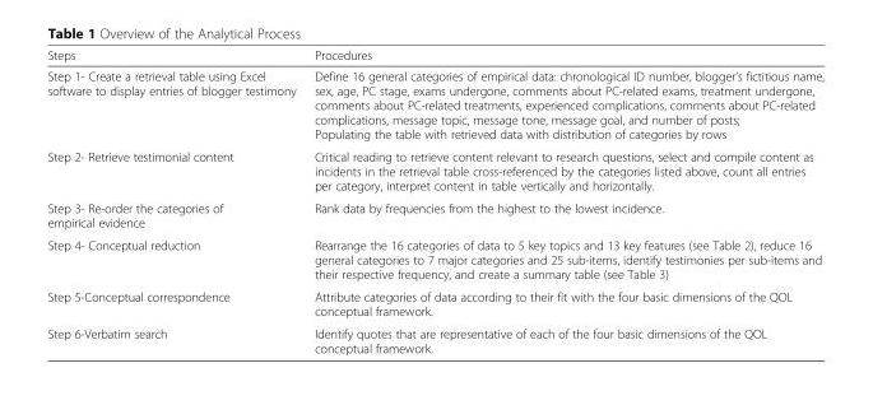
<table><thead><tr><td>Steps</td><td>Procedures</td></tr></thead><tbody><tr><td>Step 1- Create a retrieval table using Excel software to display entries of blogger testimony</td><td>Define 16 general categories of empirical data: chronological ID number, blogger’s fictitious name, sex, age, PC stage, exams undergone, comments about PC-related exams, treatment undergone, comments about PC-related treatments, experienced complications, comments about PC-related complications, message topic, message tone, message goal, and number of posts; Populating the table with retrieved data with distribution of categories by rows</td></tr><tr><td>Step 2- Retrieve testimonial content</td><td>Critical reading to retrieve content relevant to research questions, select and compile content as incidents in the retrieval table cross-referenced by the categories listed above, count all entries per category, interpret content in table vertically and horizontally.</td></tr><tr><td>Step 3- Re-order the categories of empirical evidence</td><td>Rank data by frequencies from the highest to the lowest incidence.</td></tr><tr><td>Step 4- Conceptual reduction</td><td>Rearrange the 16 categories of data to 5 key topics and 13 key features (see Table 2), reduce 16 general categories to 7 major categories and 25 sub-items, identify testimonies per sub-items and their respective frequency, and create a summary table (see Table 3)</td></tr><tr><td>Step 5-Conceptual correspondence</td><td>Attribute categories of data according to their fit with the four basic dimensions of the QOL conceptual framework.</td></tr><tr><td>Step 6-Verbatim search</td><td>Identify quotes that are representative of each of the four basic dimensions of the QOL conceptual framework.</td></tr></tbody></table>